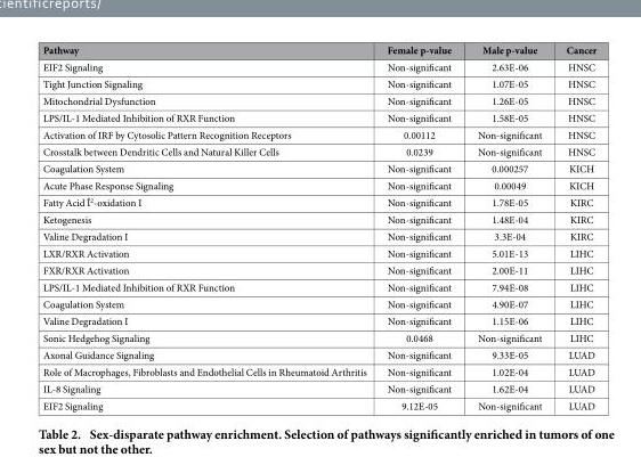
<table><thead><tr><td>Pathway</td><td>Female p-value</td><td>Male p-value</td><td>Cancer</td></tr></thead><tbody><tr><td>EIF2 Signaling</td><td>Non-significant</td><td>2.63E-06</td><td>HNSC</td></tr><tr><td>Tight Junction Signaling</td><td>Non-significant</td><td>1.07E-05</td><td>HNSC</td></tr><tr><td>Mitochondrial Dysfunction</td><td>Non-significant</td><td>1.26E-05</td><td>HNSC</td></tr><tr><td>LPS/IL-1 Mediated Inhibition of RXR Function</td><td>Non-significant</td><td>1.58E-05</td><td>HNSC</td></tr><tr><td>Activation of IRF by Cytosolic Pattern Recognition Receptors</td><td>0.00112</td><td>Non-significant</td><td>HNSC</td></tr><tr><td>Crosstalk between Dendritic Cells and Natural Killer Cells</td><td>0.0239</td><td>Non-significant</td><td>HNSC</td></tr><tr><td>Coagulation System</td><td>Non-significant</td><td>0.000257</td><td>KICH</td></tr><tr><td>Acute Phase Response Signaling</td><td>Non-significant</td><td>0.00049</td><td>KICH</td></tr><tr><td>Fatty Acid Î<sup>2</sup>-oxidation I</td><td>Non-significant</td><td>1.78E-05</td><td>KIRC</td></tr><tr><td>Ketogenesis</td><td>Non-significant</td><td>1.48E-04</td><td>KIRC</td></tr><tr><td>Valine Degradation I</td><td>Non-significant</td><td>3.3E-04</td><td>KIRC</td></tr><tr><td>LXR/RXR Activation</td><td>Non-significant</td><td>5.01E-13</td><td>LIHC</td></tr><tr><td>FXR/RXR Activation</td><td>Non-significant</td><td>2.00E-11</td><td>LIHC</td></tr><tr><td>LPS/IL-1 Mediated Inhibition of RXR Function</td><td>Non-significant</td><td>7.94E-08</td><td>LIHC</td></tr><tr><td>Coagulation System</td><td>Non-significant</td><td>4.90E-07</td><td>LIHC</td></tr><tr><td>Valine Degradation I</td><td>Non-significant</td><td>1.15E-06</td><td>LIHC</td></tr><tr><td>Sonic Hedgehog Signaling</td><td>0.0468</td><td>Non-significant</td><td>LIHC</td></tr><tr><td>Axonal Guidance Signaling</td><td>Non-significant</td><td>9.33E-05</td><td>LUAD</td></tr><tr><td>Role of Macrophages, Fibroblasts and Endothelial Cells in Rheumatoid Arthritis</td><td>Non-significant</td><td>1.02E-04</td><td>LUAD</td></tr><tr><td>IL-8 Signaling</td><td>Non-significant</td><td>1.62E-04</td><td>LUAD</td></tr><tr><td>EIF2 Signaling</td><td>9.12E-05</td><td>Non-significant</td><td>LUAD</td></tr></tbody></table>